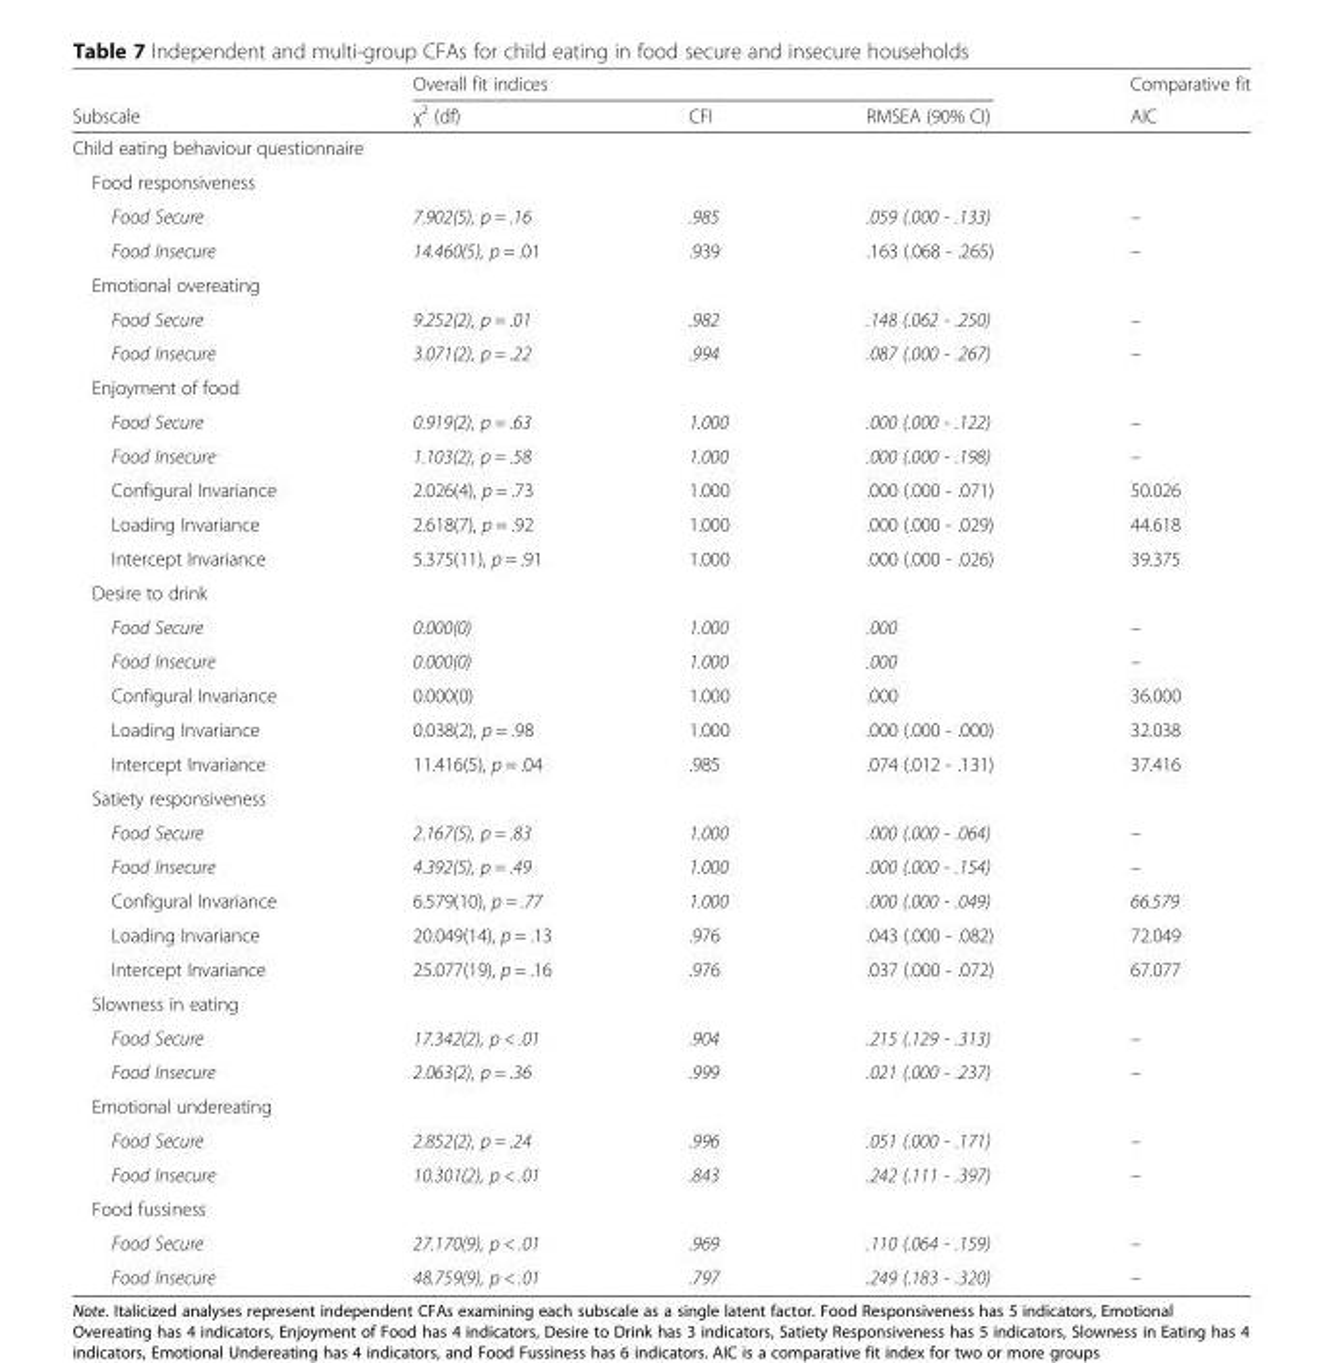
<table><thead><tr><td rowspan="2">Subscale</td><td colspan="3">Overall fit indices</td><td rowspan="2">Comparative fit AIC</td></tr><tr><td>χ<sup>2</sup> (df)</td><td>CFI</td><td>RMSEA (90% CI)</td></tr></thead><tbody><tr><td colspan="5">Child eating behaviour questionnaire</td></tr><tr><td colspan="5">Food responsiveness</td></tr><tr><td>Food Secure</td><td>7.902(5), p = .16</td><td>.985</td><td>.059 (.000 - .133)</td><td>–</td></tr><tr><td>Food Insecure</td><td>14.460(5), p = .01</td><td>.939</td><td>.163 (.068 - .265)</td><td>–</td></tr><tr><td colspan="5">Emotional overeating</td></tr><tr><td>Food Secure</td><td>9.252(2), p = .01</td><td>.982</td><td>.148 (.062 - .250)</td><td>–</td></tr><tr><td>Food Insecure</td><td>3.071(2), p = .22</td><td>.994</td><td>.087 (.000 - .267)</td><td>–</td></tr><tr><td colspan="5">Enjoyment of food</td></tr><tr><td>Food Secure</td><td>0.919(2), p = .63</td><td>1.000</td><td>.000 (.000 - .122)</td><td>–</td></tr><tr><td>Food Insecure</td><td>1.103(2), p = .58</td><td>1.000</td><td>.000 (.000 - .198)</td><td>–</td></tr><tr><td>Configural Invariance</td><td>2.026(4), p = .73</td><td>1.000</td><td>.000 (.000 - .071)</td><td>50.026</td></tr><tr><td>Loading Invariance</td><td>2.618(7), p = .92</td><td>1.000</td><td>.000 (.000 - .029)</td><td>44.618</td></tr><tr><td>Intercept Invariance</td><td>5.375(11), p = .91</td><td>1.000</td><td>.000 (.000 - .026)</td><td>39.375</td></tr><tr><td colspan="5">Desire to drink</td></tr><tr><td>Food Secure</td><td>0.000(0)</td><td>1.000</td><td>.000</td><td>–</td></tr><tr><td>Food Insecure</td><td>0.000(0)</td><td>1.000</td><td>.000</td><td>–</td></tr><tr><td>Configural Invariance</td><td>0.000(0)</td><td>1.000</td><td>.000</td><td>36.000</td></tr><tr><td>Loading Invariance</td><td>0.038(2), p = .98</td><td>1.000</td><td>.000 (.000 - .000)</td><td>32.038</td></tr><tr><td>Intercept Invariance</td><td>11.416(5), p = .04</td><td>.985</td><td>.074 (.012 - .131)</td><td>37.416</td></tr><tr><td colspan="5">Satiety responsiveness</td></tr><tr><td>Food Secure</td><td>2.167(5), p = .83</td><td>1.000</td><td>.000 (.000 - .064)</td><td>–</td></tr><tr><td>Food Insecure</td><td>4.392(5), p = .49</td><td>1.000</td><td>.000 (.000 - .154)</td><td>–</td></tr><tr><td>Configural Invariance</td><td>6.579(10), p = .77</td><td>1.000</td><td>.000 (.000 - .049)</td><td>66.579</td></tr><tr><td>Loading Invariance</td><td>20.049(14), p = .13</td><td>.976</td><td>.043 (.000 - .082)</td><td>72.049</td></tr><tr><td>Intercept Invariance</td><td>25.077(19), p = .16</td><td>.976</td><td>.037 (.000 - .072)</td><td>67.077</td></tr><tr><td colspan="5">Slowness in eating</td></tr><tr><td>Food Secure</td><td>17.342(2), p &lt; .01</td><td>.904</td><td>.215 (.129 - .313)</td><td>–</td></tr><tr><td>Food Insecure</td><td>2.063(2), p = .36</td><td>.999</td><td>.021 (.000 - .237)</td><td>–</td></tr><tr><td colspan="5">Emotional undereating</td></tr><tr><td>Food Secure</td><td>2.852(2), p = .24</td><td>.996</td><td>.051 (.000 - .171)</td><td>–</td></tr><tr><td>Food Insecure</td><td>10.301(2), p &lt; .01</td><td>.843</td><td>.242 (.111 - .397)</td><td>–</td></tr><tr><td colspan="5">Food fussiness</td></tr><tr><td>Food Secure</td><td>27.170(9), p &lt; .01</td><td>.969</td><td>.110 (.064 - .159)</td><td>–</td></tr><tr><td>Food Insecure</td><td>48.759(9), p &lt; .01</td><td>.797</td><td>.249 (.183 - .320)</td><td>–</td></tr></tbody></table>